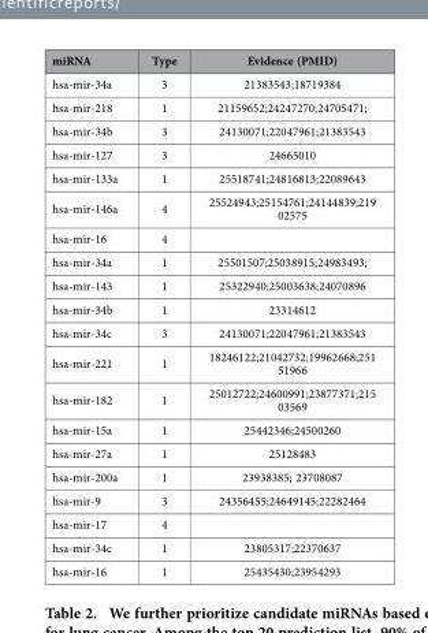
<table><thead><tr><td>miRNA</td><td>Type</td><td>Evidence (PMID)</td></tr></thead><tbody><tr><td>hsa-mir-34a</td><td>3</td><td>21383543;18719384</td></tr><tr><td>hsa-mir-218</td><td>1</td><td>21159652;24247270;24705471;</td></tr><tr><td>hsa-mir-34b</td><td>3</td><td>24130071;22047961;21383543</td></tr><tr><td>hsa-mir-127</td><td>3</td><td>24665010</td></tr><tr><td>hsa-mir-133a</td><td>1</td><td>25518741;24816813;22089643</td></tr><tr><td>hsa-mir-146a</td><td>4</td><td>25524943;25154761;24144839;219 02575</td></tr><tr><td>hsa-mir-16</td><td>4</td><td></td></tr><tr><td>hsa-mir-34a</td><td>1</td><td>25501507;25038915;24983493;</td></tr><tr><td>hsa-mir-143</td><td>1</td><td>25322940;25003638;24070896</td></tr><tr><td>hsa-mir-34b</td><td>1</td><td>23314612</td></tr><tr><td>hsa-mir-34c</td><td>3</td><td>24130071;22047961;21383543</td></tr><tr><td>hsa-mir-221</td><td>1</td><td>18246122;21042732;19962668;251 51966</td></tr><tr><td>hsa-mir-182</td><td>1</td><td>25012722;24600991;23877371;215 03569</td></tr><tr><td>hsa-mir-15a</td><td>1</td><td>25442346;24500260</td></tr><tr><td>hsa-mir-27a</td><td>1</td><td>25128483</td></tr><tr><td>hsa-mir-200a</td><td>1</td><td>23938385; 23708087</td></tr><tr><td>hsa-mir-9</td><td>3</td><td>24356455;24649145;22282464</td></tr><tr><td>hsa-mir-17</td><td>4</td><td></td></tr><tr><td>hsa-mir-34c</td><td>1</td><td>23805317;22370637</td></tr><tr><td>hsa-mir-16</td><td>1</td><td>25435430;23954293</td></tr></tbody></table>